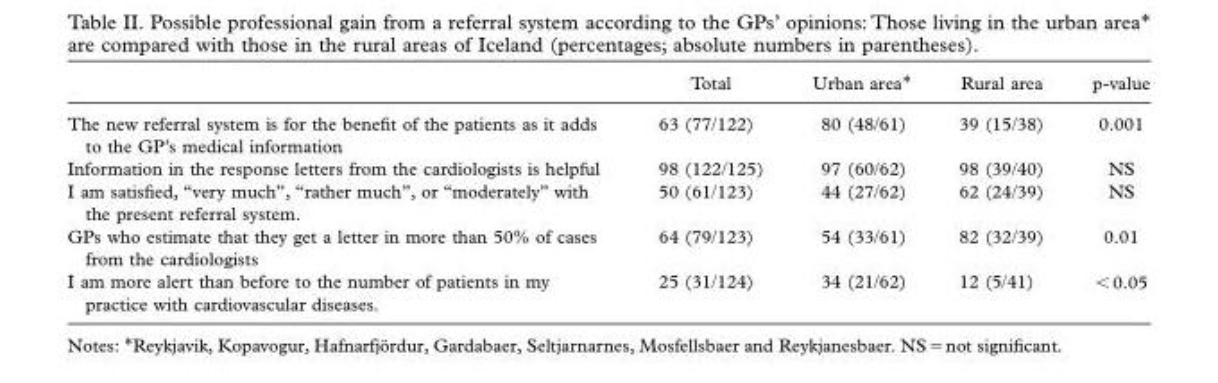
<table><thead><tr><td></td><td>Total</td><td>Urban area *</td><td>Rural area</td><td>p-value</td></tr></thead><tbody><tr><td>The new referral system is for the benefi t of the patients as it adds to the GP ’ s medical information</td><td>63 (77/122)</td><td>80 (48/61)</td><td>39 (15/38)</td><td>0.001</td></tr><tr><td>Information in the response letters from the cardiologists is helpful</td><td>98 (122/125)</td><td>97 (60/62)</td><td>98 (39/40)</td><td>NS</td></tr><tr><td>I am satisfi ed, “ very much ” , “ rather much ” , or “ moderately ” with the present referral system.</td><td>50 (61/123)</td><td>44 (27/62)</td><td>62 (24/39)</td><td>NS</td></tr><tr><td>GPs who estimate that they get a letter in more than 50% of cases from the cardiologists</td><td>64 (79/123)</td><td>54 (33/61)</td><td>82 (32/39)</td><td>0.01</td></tr><tr><td>I am more alert than before to the number of patients in my practice with cardiovascular diseases.</td><td>25 (31/124)</td><td>34 (21/62)</td><td>12 (5/41)</td><td>&lt; 0.05</td></tr></tbody></table>